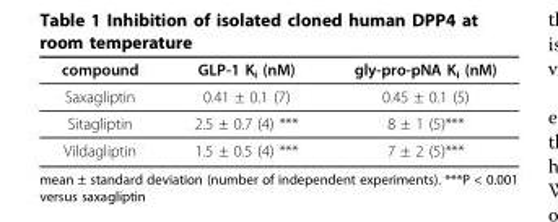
<table><thead><tr><td>compound</td><td>GLP-1 K<sub>i</sub> (nM)</td><td>gly-pro-pNA K<sub>i</sub> (nM)</td></tr></thead><tbody><tr><td>Saxagliptin</td><td>0.41 ± 0.1 (7)</td><td>0.45 ± 0.1 (5)</td></tr><tr><td>Sitagliptin</td><td>2.5 ± 0.7 (4) ***</td><td>8 ± 1 (5)***</td></tr><tr><td>Vildagliptin</td><td>1.5 ± 0.5 (4) ***</td><td>7 ± 2 (5)***</td></tr></tbody></table>